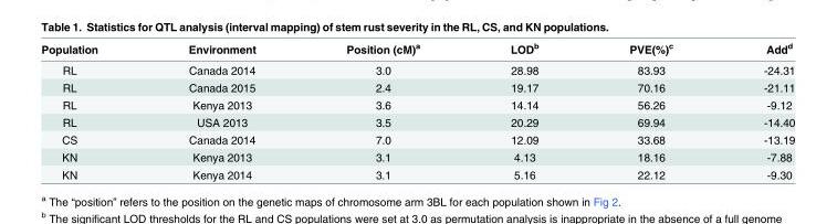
<table><thead><tr><td>Population</td><td>Environment</td><td>Position (cM)<sup>a</sup></td><td>LOD<sup>b</sup></td><td>PVE(%)<sup>c</sup></td><td>Add<sup>d</sup></td></tr></thead><tbody><tr><td>RL</td><td>Canada 2014</td><td>3.0</td><td>28.98</td><td>83.93</td><td>-24.31</td></tr><tr><td>RL</td><td>Canada 2015</td><td>2.4</td><td>19.17</td><td>70.16</td><td>-21.11</td></tr><tr><td>RL</td><td>Kenya 2013</td><td>3.6</td><td>14.14</td><td>56.26</td><td>-9.12</td></tr><tr><td>RL</td><td>USA 2013</td><td>3.5</td><td>20.29</td><td>69.94</td><td>-14.40</td></tr><tr><td>CS</td><td>Canada 2014</td><td>7.0</td><td>12.09</td><td>33.68</td><td>-13.19</td></tr><tr><td>KN</td><td>Kenya 2013</td><td>3.1</td><td>4.13</td><td>18.16</td><td>-7.88</td></tr><tr><td>KN</td><td>Kenya 2014</td><td>3.1</td><td>5.16</td><td>22.12</td><td>-9.30</td></tr></tbody></table>